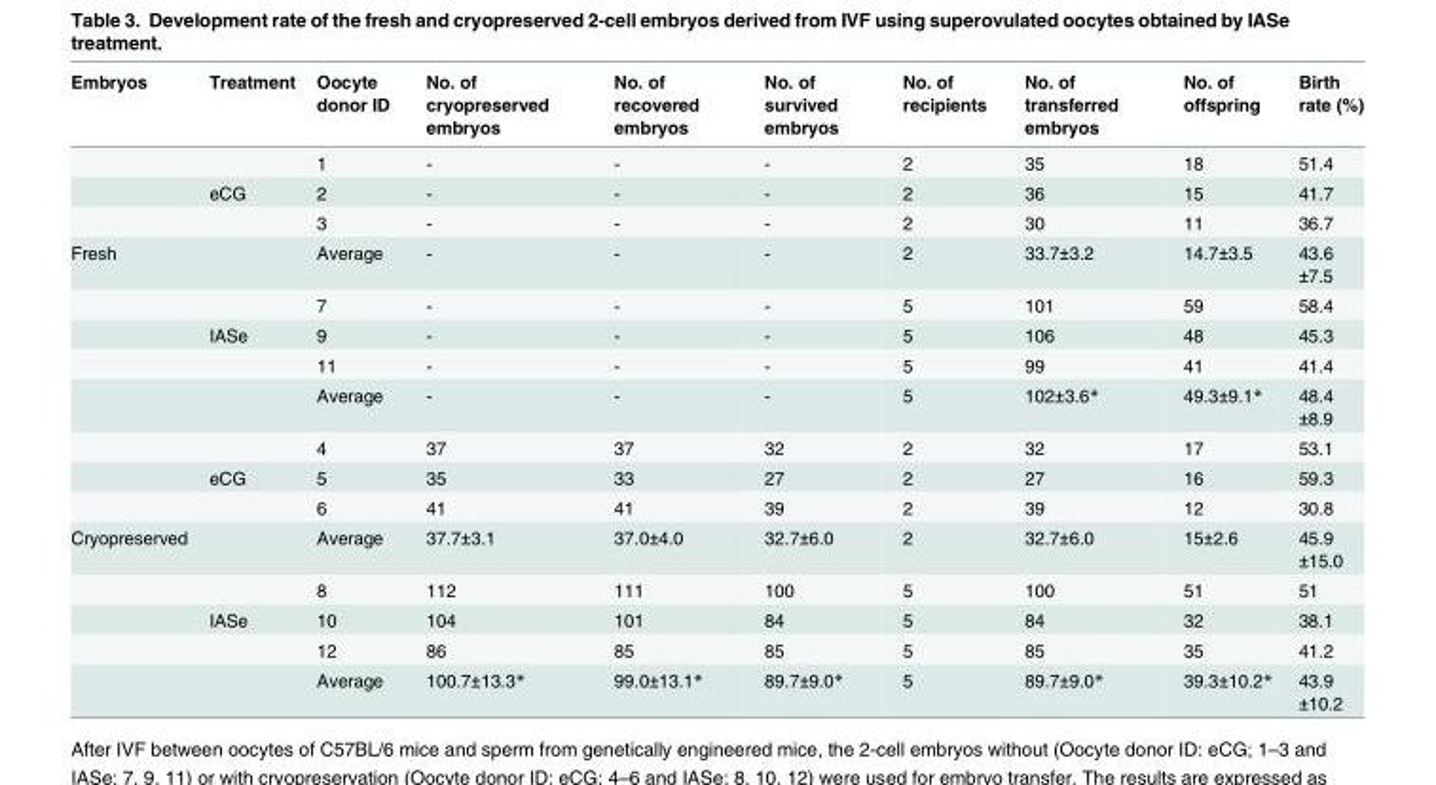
<table><thead><tr><td>Embryos</td><td>Treatment</td><td>Oocyte donor ID</td><td>No. of cryopreserved embryos</td><td>No. of recovered embryos</td><td>No. of survived embryos</td><td>No. of recipients</td><td>No. of transferred embryos</td><td>No. of offspring</td><td>Birth rate (%)</td></tr></thead><tbody><tr><td></td><td></td><td>1</td><td>-</td><td>-</td><td>-</td><td>2</td><td>35</td><td>18</td><td>51.4</td></tr><tr><td></td><td>eCG</td><td>2</td><td>-</td><td>-</td><td>-</td><td>2</td><td>36</td><td>15</td><td>41.7</td></tr><tr><td></td><td></td><td>3</td><td>-</td><td>-</td><td>-</td><td>2</td><td>30</td><td>11</td><td>36.7</td></tr><tr><td rowspan="8">Fresh</td><td></td><td>Average</td><td>-</td><td>-</td><td>-</td><td>2</td><td>33.7±3.2</td><td>14.7±3.5</td><td>43.6 ±7.5</td></tr><tr><td></td><td>7</td><td>-</td><td>-</td><td>-</td><td>5</td><td>101</td><td>59</td><td>58.4</td></tr><tr><td>IASe</td><td>9</td><td>-</td><td>-</td><td>-</td><td>5</td><td>106</td><td>48</td><td>45.3</td></tr><tr><td></td><td>11</td><td>-</td><td>-</td><td>-</td><td>5</td><td>99</td><td>41</td><td>41.4</td></tr><tr><td></td><td>Average</td><td>-</td><td>-</td><td>-</td><td>5</td><td>102±3.6*</td><td>49.3±9.1*</td><td>48.4 ±8.9</td></tr><tr><td></td><td>4</td><td>37</td><td>37</td><td>32</td><td>2</td><td>32</td><td>17</td><td>53.1</td></tr><tr><td>eCG</td><td>5</td><td>35</td><td>33</td><td>27</td><td>2</td><td>27</td><td>16</td><td>59.3</td></tr><tr><td></td><td>6</td><td>41</td><td>41</td><td>39</td><td>2</td><td>39</td><td>12</td><td>30.8</td></tr><tr><td rowspan="5">Cryopreserved</td><td></td><td>Average</td><td>37.7±3.1</td><td>37.0±4.0</td><td>32.7±6.0</td><td>2</td><td>32.7±6.0</td><td>15±2.6</td><td>45.9 ±15.0</td></tr><tr><td></td><td>8</td><td>112</td><td>111</td><td>100</td><td>5</td><td>100</td><td>51</td><td>51</td></tr><tr><td>IASe</td><td>10</td><td>104</td><td>101</td><td>84</td><td>5</td><td>84</td><td>32</td><td>38.1</td></tr><tr><td></td><td>12</td><td>86</td><td>85</td><td>85</td><td>5</td><td>85</td><td>35</td><td>41.2</td></tr><tr><td></td><td>Average</td><td>100.7±13.3*</td><td>99.0±13.1*</td><td>89.7±9.0*</td><td>5</td><td>89.7±9.0*</td><td>39.3±10.2*</td><td>43.9 ±10.2</td></tr></tbody></table>